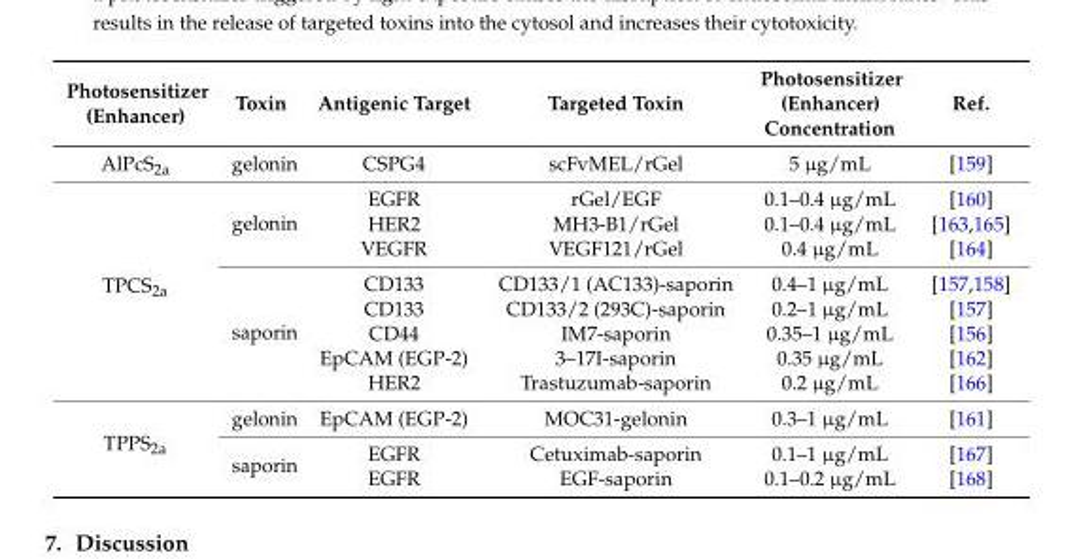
<table><thead><tr><td>Photosensitizer (Enhancer)</td><td>Toxin</td><td>Antigenic Target</td><td>Targeted Toxin</td><td>Photosensitizer (Enhancer) Concentration</td><td>Ref.</td></tr></thead><tbody><tr><td>AlPcS<sub>2a</sub></td><td>gelonin</td><td>CSPG4</td><td>scFvMEL/rGel</td><td>5 µg/mL</td><td>[159]</td></tr><tr><td rowspan="8">TPCS<sub>2a</sub></td><td rowspan="3">gelonin</td><td>EGFR</td><td>rGel/EGF</td><td>0.1–0.4 µg/mL</td><td>[160]</td></tr><tr><td>HER2</td><td>MH3-B1/rGel</td><td>0.1–0.4 µg/mL</td><td>[163,165]</td></tr><tr><td>VEGFR</td><td>VEGF121/rGel</td><td>0.4 µg/mL</td><td>[164]</td></tr><tr><td rowspan="5">saporin</td><td>CD133</td><td>CD133/1 (AC133)-saporin</td><td>0.4–1 µg/mL</td><td>[157,158]</td></tr><tr><td>CD133</td><td>CD133/2 (293C)-saporin</td><td>0.2–1 µg/mL</td><td>[157]</td></tr><tr><td>CD44</td><td>IM7-saporin</td><td>0.35–1 µg/mL</td><td>[156]</td></tr><tr><td>EpCAM (EGP-2)</td><td>3–17I-saporin</td><td>0.35 µg/mL</td><td>[162]</td></tr><tr><td>HER2</td><td>Trastuzumab-saporin</td><td>0.2 µg/mL</td><td>[166]</td></tr><tr><td rowspan="3">TPPS<sub>2a</sub></td><td>gelonin</td><td>EpCAM (EGP-2)</td><td>MOC31-gelonin</td><td>0.3–1 µg/mL</td><td>[161]</td></tr><tr><td rowspan="2">saporin</td><td>EGFR</td><td>Cetuximab-saporin</td><td>0.1–1 µg/mL</td><td>[167]</td></tr><tr><td>EGFR</td><td>EGF-saporin</td><td>0.1–0.2 µg/mL</td><td>[168]</td></tr></tbody></table>